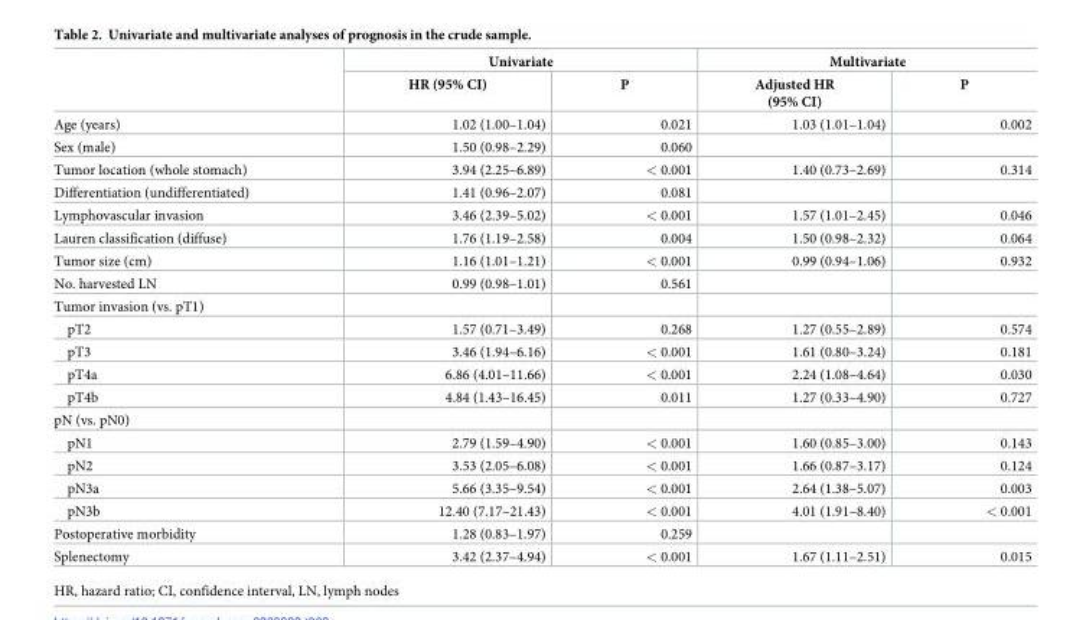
<table><thead><tr><td rowspan="2"></td><td colspan="2">Univariate</td><td colspan="2">Multivariate</td></tr><tr><td>HR (95% CI)</td><td>P</td><td>Adjusted HR (95% CI)</td><td>P</td></tr></thead><tbody><tr><td>Age (years)</td><td>1.02 (1.00–1.04)</td><td>0.021</td><td>1.03 (1.01–1.04)</td><td>0.002</td></tr><tr><td>Sex (male)</td><td>1.50 (0.98–2.29)</td><td>0.060</td><td></td><td></td></tr><tr><td>Tumor location (whole stomach)</td><td>3.94 (2.25–6.89)</td><td>&lt; 0.001</td><td>1.40 (0.73–2.69)</td><td>0.314</td></tr><tr><td>Differentiation (undifferentiated)</td><td>1.41 (0.96–2.07)</td><td>0.081</td><td></td><td></td></tr><tr><td>Lymphovascular invasion</td><td>3.46 (2.39–5.02)</td><td>&lt; 0.001</td><td>1.57 (1.01–2.45)</td><td>0.046</td></tr><tr><td>Lauren classification (diffuse)</td><td>1.76 (1.19–2.58)</td><td>0.004</td><td>1.50 (0.98–2.32)</td><td>0.064</td></tr><tr><td>Tumor size (cm)</td><td>1.16 (1.01–1.21)</td><td>&lt; 0.001</td><td>0.99 (0.94–1.06)</td><td>0.932</td></tr><tr><td>No. harvested LN</td><td>0.99 (0.98–1.01)</td><td>0.561</td><td></td><td></td></tr><tr><td colspan="5">Tumor invasion (vs. pT1)</td></tr><tr><td>pT2</td><td>1.57 (0.71–3.49)</td><td>0.268</td><td>1.27 (0.55–2.89)</td><td>0.574</td></tr><tr><td>pT3</td><td>3.46 (1.94–6.16)</td><td>&lt; 0.001</td><td>1.61 (0.80–3.24)</td><td>0.181</td></tr><tr><td>pT4a</td><td>6.86 (4.01–11.66)</td><td>&lt; 0.001</td><td>2.24 (1.08–4.64)</td><td>0.030</td></tr><tr><td>pT4b</td><td>4.84 (1.43–16.45)</td><td>0.011</td><td>1.27 (0.33–4.90)</td><td>0.727</td></tr><tr><td colspan="5">pN (vs. pN0)</td></tr><tr><td>pN1</td><td>2.79 (1.59–4.90)</td><td>&lt; 0.001</td><td>1.60 (0.85–3.00)</td><td>0.143</td></tr><tr><td>pN2</td><td>3.53 (2.05–6.08)</td><td>&lt; 0.001</td><td>1.66 (0.87–3.17)</td><td>0.124</td></tr><tr><td>pN3a</td><td>5.66 (3.35–9.54)</td><td>&lt; 0.001</td><td>2.64 (1.38–5.07)</td><td>0.003</td></tr><tr><td>pN3b</td><td>12.40 (7.17–21.43)</td><td>&lt; 0.001</td><td>4.01 (1.91–8.40)</td><td>&lt; 0.001</td></tr><tr><td>Postoperative morbidity</td><td>1.28 (0.83–1.97)</td><td>0.259</td><td></td><td></td></tr><tr><td>Splenectomy</td><td>3.42 (2.37–4.94)</td><td>&lt; 0.001</td><td>1.67 (1.11–2.51)</td><td>0.015</td></tr></tbody></table>